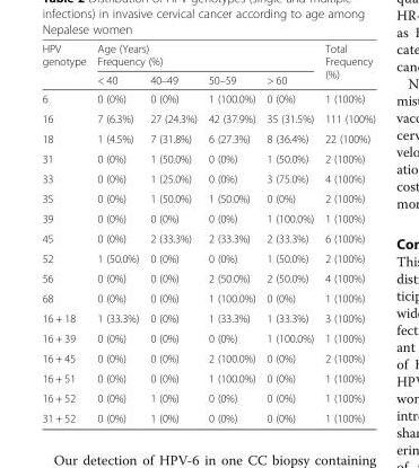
<table><thead><tr><td rowspan="2">HPV genotype</td><td colspan="4">Age (Years) Frequency (%)</td><td rowspan="2">Total Frequency (%)</td></tr><tr><td>&lt; 40</td><td>40–49</td><td>50–59</td><td>&gt; 60</td></tr></thead><tbody><tr><td>6</td><td>0 (0%)</td><td>0 (0%)</td><td>1 (100.0%)</td><td>0 (0%)</td><td>1 (100%)</td></tr><tr><td>16</td><td>7 (6.3%)</td><td>27 (24.3%)</td><td>42 (37.9%)</td><td>35 (31.5%)</td><td>111 (100%)</td></tr><tr><td>18</td><td>1 (4.5%)</td><td>7 (31.8%)</td><td>6 (27.3%)</td><td>8 (36.4%)</td><td>22 (100%)</td></tr><tr><td>31</td><td>0 (0%)</td><td>1 (50.0%)</td><td>0 (0%)</td><td>1 (50.0%)</td><td>2 (100%)</td></tr><tr><td>33</td><td>0 (0%)</td><td>1 (25.0%)</td><td>0 (0%)</td><td>3 (75.0%)</td><td>4 (100%)</td></tr><tr><td>35</td><td>0 (0%)</td><td>1 (50.0%)</td><td>1 (50.0%)</td><td>0 (0%)</td><td>2 (100%)</td></tr><tr><td>39</td><td>0 (0%)</td><td>0 (0%)</td><td>0 (0%)</td><td>1 (100.0%)</td><td>1 (100%)</td></tr><tr><td>45</td><td>0 (0%)</td><td>2 (33.3%)</td><td>2 (33.3%)</td><td>2 (33.3%)</td><td>6 (100%)</td></tr><tr><td>52</td><td>1 (50.0%)</td><td>0 (0%)</td><td>0 (0%)</td><td>1 (50.0%)</td><td>2 (100%)</td></tr><tr><td>56</td><td>0 (0%)</td><td>0 (0%)</td><td>2 (50.0%)</td><td>2 (50.0%)</td><td>4 (100%)</td></tr><tr><td>68</td><td>0 (0%)</td><td>0 (0%)</td><td>1 (100.0%)</td><td>0 (0%)</td><td>1 (100%)</td></tr><tr><td>16 + 18</td><td>1 (33.3%)</td><td>0 (0%)</td><td>1 (33.3%)</td><td>1 (33.3%)</td><td>3 (100%)</td></tr><tr><td>16 + 39</td><td>0 (0%)</td><td>0 (0%)</td><td>0 (0%)</td><td>1 (100.0%)</td><td>1 (100%)</td></tr><tr><td>16 + 45</td><td>0 (0%)</td><td>0 (0%)</td><td>2 (100.0%)</td><td>0 (0%)</td><td>2 (100%)</td></tr><tr><td>16 + 51</td><td>0 (0%)</td><td>0 (0%)</td><td>1 (100.0%)</td><td>0 (0%)</td><td>1 (100%)</td></tr><tr><td>16 + 52</td><td>0 (0%)</td><td>1 (0%)</td><td>0 (0%)</td><td>0 (0%)</td><td>1 (100%)</td></tr><tr><td>31 + 52</td><td>0 (0%)</td><td>1 (0%)</td><td>0 (0%)</td><td>0 (0%)</td><td>1 (100%)</td></tr></tbody></table>